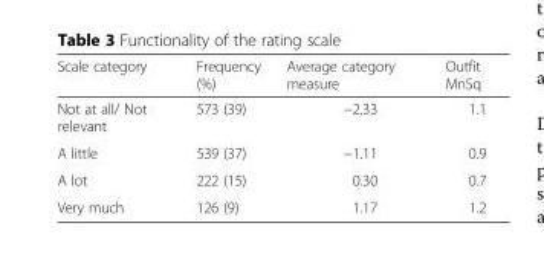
<table><thead><tr><td>Scale category</td><td>Frequency (%)</td><td>Average category measure</td><td>Outfit MnSq</td></tr></thead><tbody><tr><td>Not at all/ Not relevant</td><td>573 (39)</td><td>−2.33</td><td>1.1</td></tr><tr><td>A little</td><td>539 (37)</td><td>−1.11</td><td>0.9</td></tr><tr><td>A lot</td><td>222 (15)</td><td>0.30</td><td>0.7</td></tr><tr><td>Very much</td><td>126 (9)</td><td>1.17</td><td>1.2</td></tr></tbody></table>